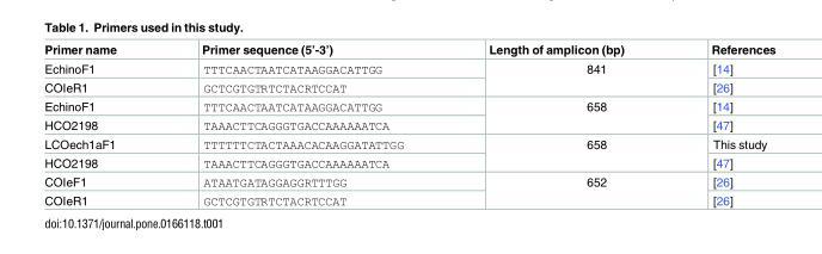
<table><thead><tr><td>Primer name</td><td>Primer sequence (5’-3’)</td><td>Length of amplicon (bp)</td><td>References</td></tr></thead><tbody><tr><td>EchinoF1</td><td>TTTCAACTAATCATAAGGACATTGG</td><td rowspan="2">841</td><td>[14]</td></tr><tr><td>COIeR1</td><td>GCTCGTGTRTCTACRTCCAT</td><td>[26]</td></tr><tr><td>EchinoF1</td><td>TTTCAACTAATCATAAGGACATTGG</td><td rowspan="2">658</td><td>[14]</td></tr><tr><td>HCO2198</td><td>TAAACTTCAGGGTGACCAAAAAATCA</td><td>[47]</td></tr><tr><td>LCOech1aF1</td><td>TTTTTTCTACTAAACACAAGGATATTGG</td><td rowspan="2">658</td><td>This study</td></tr><tr><td>HCO2198</td><td>TAAACTTCAGGGTGACCAAAAAATCA</td><td>[47]</td></tr><tr><td>COIeF1</td><td>ATAATGATAGGAGGRTTTGG</td><td rowspan="2">652</td><td>[26]</td></tr><tr><td>COIeR1</td><td>GCTCGTGTRTCTACRTCCAT</td><td>[26]</td></tr></tbody></table>